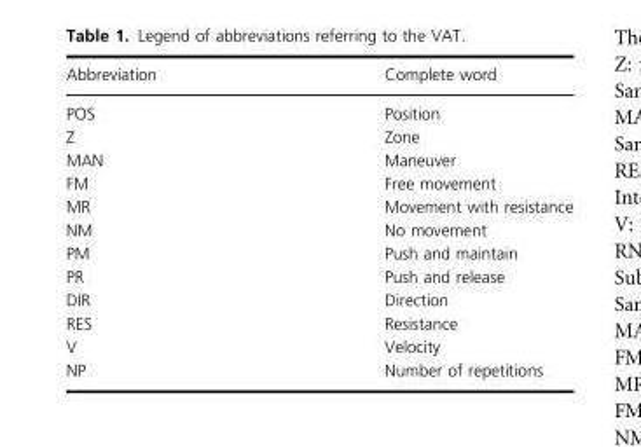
<table><thead><tr><td>Abbreviation</td><td>Complete word</td></tr></thead><tbody><tr><td>POS</td><td>Position</td></tr><tr><td>Z</td><td>Zone</td></tr><tr><td>MAN</td><td>Maneuver</td></tr><tr><td>FM</td><td>Free movement</td></tr><tr><td>MR</td><td>Movement with resistance</td></tr><tr><td>NM</td><td>No movement</td></tr><tr><td>PM</td><td>Push and maintain</td></tr><tr><td>PR</td><td>Push and release</td></tr><tr><td>DIR</td><td>Direction</td></tr><tr><td>RES</td><td>Resistance</td></tr><tr><td>V</td><td>Velocity</td></tr><tr><td>NP</td><td>Number of repetitions</td></tr></tbody></table>